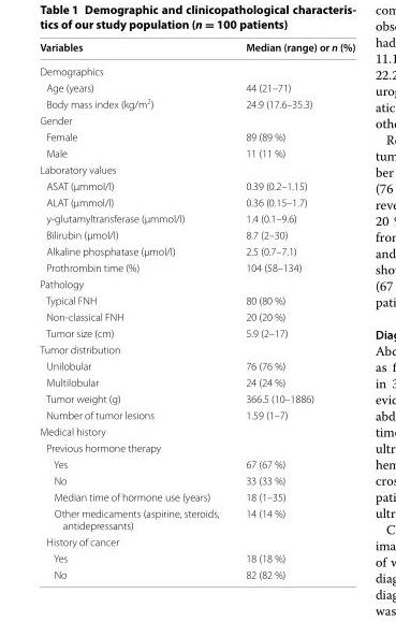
<table><thead><tr><td>Variables</td><td>Median (range) or n (%)</td></tr></thead><tbody><tr><td colspan="2">Demographics</td></tr><tr><td>Age (years)</td><td>44 (21–71)</td></tr><tr><td>Body mass index (kg/m<sup>2</sup>)</td><td>24.9 (17.6–35.3)</td></tr><tr><td colspan="2">Gender</td></tr><tr><td>Female</td><td>89 (89 %)</td></tr><tr><td>Male</td><td>11 (11 %)</td></tr><tr><td colspan="2">Laboratory values</td></tr><tr><td>ASAT (µmmol/l)</td><td>0.39 (0.2–1.15)</td></tr><tr><td>ALAT (µmmol/l)</td><td>0.36 (0.15–1.7)</td></tr><tr><td>y‑glutamyltransferase (µmmol/l)</td><td>1.4 (0.1–9.6)</td></tr><tr><td>Bilirubin (µmol/l)</td><td>8.7 (2–30)</td></tr><tr><td>Alkaline phosphatase (µmol/l)</td><td>2.5 (0.7–7.1)</td></tr><tr><td>Prothrombin time (%)</td><td>104 (58–134)</td></tr><tr><td colspan="2">Pathology</td></tr><tr><td>Typical FNH</td><td>80 (80 %)</td></tr><tr><td>Non‑classical FNH</td><td>20 (20 %)</td></tr><tr><td>Tumor size (cm)</td><td>5.9 (2–17)</td></tr><tr><td colspan="2">Tumor distribution</td></tr><tr><td>Unilobular</td><td>76 (76 %)</td></tr><tr><td>Multilobular</td><td>24 (24 %)</td></tr><tr><td>Tumor weight (g)</td><td>366.5 (10–1886)</td></tr><tr><td>Number of tumor lesions</td><td>1.59 (1–7)</td></tr><tr><td colspan="2">Medical history</td></tr><tr><td colspan="2">Previous hormone therapy</td></tr><tr><td>Yes</td><td>67 (67 %)</td></tr><tr><td>No</td><td>33 (33 %)</td></tr><tr><td>Median time of hormone use (years)</td><td>18 (1–35)</td></tr><tr><td>Other medicaments (aspirine, steroids, antidepressants)</td><td>14 (14 %)</td></tr><tr><td colspan="2">History of cancer</td></tr><tr><td>Yes</td><td>18 (18 %)</td></tr><tr><td>No</td><td>82 (82 %)</td></tr></tbody></table>